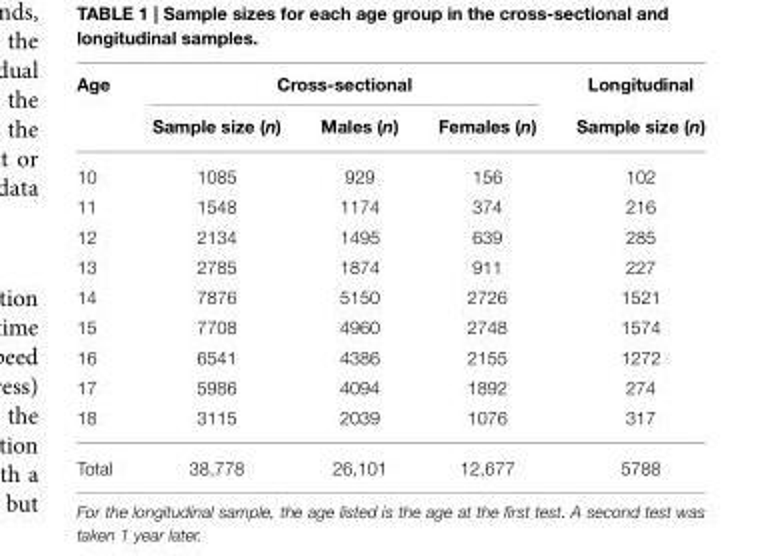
<table><thead><tr><td rowspan="2">Age</td><td colspan="3">Cross-sectional</td><td rowspan="2">Longitudinal Sample size (n)</td></tr><tr><td>Sample size (n)</td><td>Males (n)</td><td>Females (n)</td></tr></thead><tbody><tr><td>10</td><td>1085</td><td>929</td><td>156</td><td>102</td></tr><tr><td>11</td><td>1548</td><td>1174</td><td>374</td><td>216</td></tr><tr><td>12</td><td>2134</td><td>1495</td><td>639</td><td>285</td></tr><tr><td>13</td><td>2785</td><td>1874</td><td>911</td><td>227</td></tr><tr><td>14</td><td>7876</td><td>5150</td><td>2726</td><td>1521</td></tr><tr><td>15</td><td>7708</td><td>4960</td><td>2748</td><td>1574</td></tr><tr><td>16</td><td>6541</td><td>4386</td><td>2155</td><td>1272</td></tr><tr><td>17</td><td>5986</td><td>4094</td><td>1892</td><td>274</td></tr><tr><td>18</td><td>3115</td><td>2039</td><td>1076</td><td>317</td></tr><tr><td>Total</td><td>38,778</td><td>26,101</td><td>12,677</td><td>5788</td></tr></tbody></table>